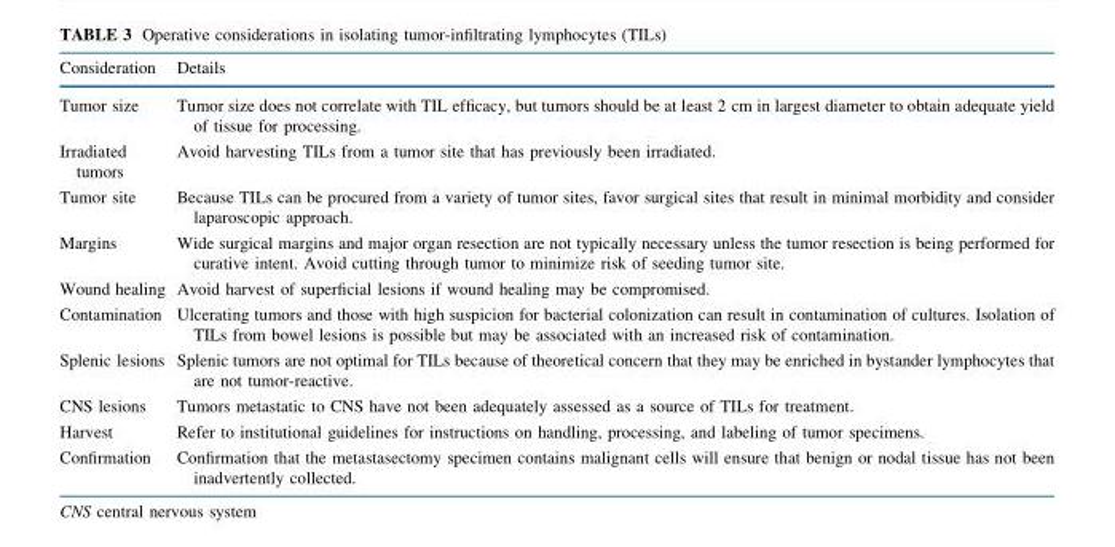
<table><thead><tr><td>Consideration</td><td>Details</td></tr></thead><tbody><tr><td>Tumor size</td><td>Tumor size does not correlate with TIL efficacy, but tumors should be at least 2 cm in largest diameter to obtain adequate yield of tissue for processing.</td></tr><tr><td>Irradiated tumors</td><td>Avoid harvesting TILs from a tumor site that has previously been irradiated.</td></tr><tr><td>Tumor site</td><td>Because TILs can be procured from a variety of tumor sites, favor surgical sites that result in minimal morbidity and consider laparoscopic approach.</td></tr><tr><td>Margins</td><td>Wide surgical margins and major organ resection are not typically necessary unless the tumor resection is being performed for curative intent. Avoid cutting through tumor to minimize risk of seeding tumor site.</td></tr><tr><td>Wound healing</td><td>Avoid harvest of superficial lesions if wound healing may be compromised.</td></tr><tr><td>Contamination</td><td>Ulcerating tumors and those with high suspicion for bacterial colonization can result in contamination of cultures. Isolation of TILs from bowel lesions is possible but may be associated with an increased risk of contamination.</td></tr><tr><td>Splenic lesions</td><td>Splenic tumors are not optimal for TILs because of theoretical concern that they may be enriched in bystander lymphocytes that are not tumor-reactive.</td></tr><tr><td>CNS lesions</td><td>Tumors metastatic to CNS have not been adequately assessed as a source of TILs for treatment.</td></tr><tr><td>Harvest</td><td>Refer to institutional guidelines for instructions on handling, processing, and labeling of tumor specimens.</td></tr><tr><td>Confirmation</td><td>Confirmation that the metastasectomy specimen contains malignant cells will ensure that benign or nodal tissue has not been inadvertently collected.</td></tr></tbody></table>